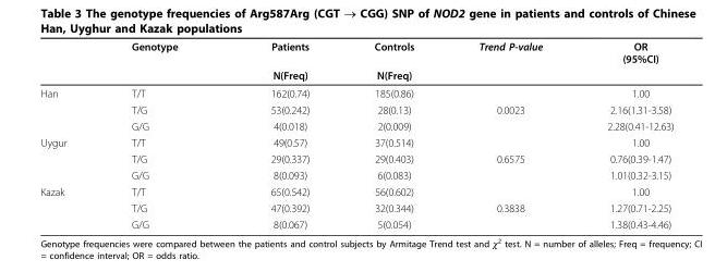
<table><thead><tr><td rowspan="2"></td><td rowspan="2">Genotype</td><td rowspan="2">Patients N(Freq)</td><td rowspan="2">Controls N(Freq)</td><td rowspan="2">Trend P-value</td><td rowspan="2">OR (95%CI)</td></tr><tr></tr></thead><tbody><tr><td rowspan="3">Han</td><td>T/T</td><td>162(0.74)</td><td>185(0.86)</td><td></td><td>1.00</td></tr><tr><td>T/G</td><td>53(0.242)</td><td>28(0.13)</td><td>0.0023</td><td>2.16(1.31-3.58)</td></tr><tr><td>G/G</td><td>4(0.018)</td><td>2(0.009)</td><td></td><td>2.28(0.41-12.63)</td></tr><tr><td rowspan="3">Uygur</td><td>T/T</td><td>49(0.57)</td><td>37(0.514)</td><td></td><td>1.00</td></tr><tr><td>T/G</td><td>29(0.337)</td><td>29(0.403)</td><td>0.6575</td><td>0.76(0.39-1.47)</td></tr><tr><td>G/G</td><td>8(0.093)</td><td>6(0.083)</td><td></td><td>1.01(0.32-3.15)</td></tr><tr><td rowspan="3">Kazak</td><td>T/T</td><td>65(0.542)</td><td>56(0.602)</td><td></td><td>1.00</td></tr><tr><td>T/G</td><td>47(0.392)</td><td>32(0.344)</td><td>0.3838</td><td>1.27(0.71-2.25)</td></tr><tr><td>G/G</td><td>8(0.067)</td><td>5(0.054)</td><td></td><td>1.38(0.43-4.46)</td></tr></tbody></table>